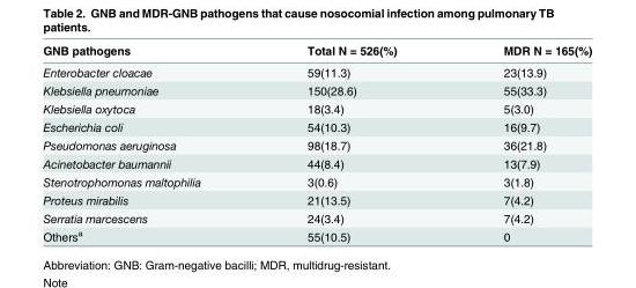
<table><thead><tr><td>GNB pathogens</td><td>Total N = 526(%)</td><td>MDR N = 165(%)</td></tr></thead><tbody><tr><td>Enterobacter cloacae</td><td>59(11.3)</td><td>23(13.9)</td></tr><tr><td>Klebsiella pneumoniae</td><td>150(28.6)</td><td>55(33.3)</td></tr><tr><td>Klebsiella oxytoca</td><td>18(3.4)</td><td>5(3.0)</td></tr><tr><td>Escherichia coli</td><td>54(10.3)</td><td>16(9.7)</td></tr><tr><td>Pseudomonas aeruginosa</td><td>98(18.7)</td><td>36(21.8)</td></tr><tr><td>Acinetobacter baumannii</td><td>44(8.4)</td><td>13(7.9)</td></tr><tr><td>Stenotrophomonas maltophilia</td><td>3(0.6)</td><td>3(1.8)</td></tr><tr><td>Proteus mirabilis</td><td>21(13.5)</td><td>7(4.2)</td></tr><tr><td>Serratia marcescens</td><td>24(3.4)</td><td>7(4.2)</td></tr><tr><td>Others<sup>a</sup></td><td>55(10.5)</td><td>0</td></tr></tbody></table>